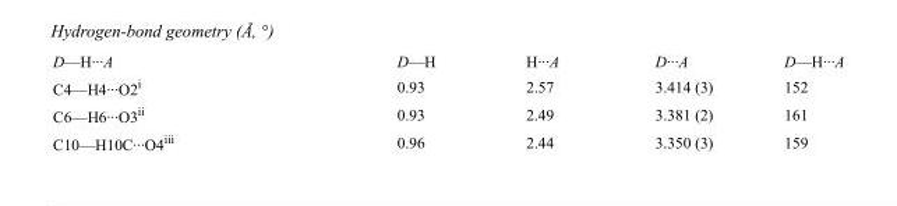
<table><tbody><tr><td>D—H···A</td><td>D—H</td><td>H···A</td><td>D···A</td><td>D—H···A</td></tr><tr><td>C4—H4···O2<sup>i</sup></td><td>0.93</td><td>2.57</td><td>3.414 (3)</td><td>152</td></tr><tr><td>C6—H6···O3<sup>ii</sup></td><td>0.93</td><td>2.49</td><td>3.381 (2)</td><td>161</td></tr><tr><td>C10—H10C···O4<sup>iii</sup></td><td>0.96</td><td>2.44</td><td>3.350 (3)</td><td>159</td></tr></tbody></table>